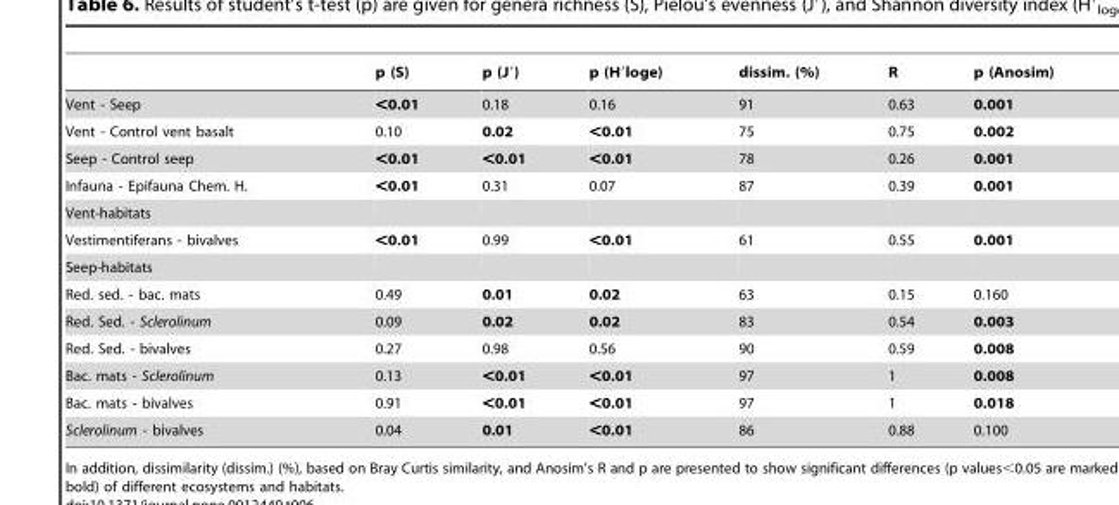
<table><thead><tr><td></td><td>p (S)</td><td>p (J′)</td><td>p (H′loge)</td><td>dissim. (%)</td><td>R</td><td>p (Anosim)</td></tr></thead><tbody><tr><td>Vent - Seep</td><td>&lt;0.01</td><td>0.18</td><td>0.16</td><td>91</td><td>0.63</td><td>0.001</td></tr><tr><td>Vent - Control vent basalt</td><td>0.10</td><td>0.02</td><td>&lt;0.01</td><td>75</td><td>0.75</td><td>0.002</td></tr><tr><td>Seep - Control seep</td><td>&lt;0.01</td><td>&lt;0.01</td><td>&lt;0.01</td><td>78</td><td>0.26</td><td>0.001</td></tr><tr><td>Infauna - Epifauna Chem. H.</td><td>&lt;0.01</td><td>0.31</td><td>0.07</td><td>87</td><td>0.39</td><td>0.001</td></tr><tr><td colspan="7">Vent-habitats</td></tr><tr><td>Vestimentiferans - bivalves</td><td>&lt;0.01</td><td>0.99</td><td>&lt;0.01</td><td>61</td><td>0.55</td><td>0.001</td></tr><tr><td colspan="7">Seep-habitats</td></tr><tr><td>Red. sed. - bac. mats</td><td>0.49</td><td>0.01</td><td>0.02</td><td>63</td><td>0.15</td><td>0.160</td></tr><tr><td>Red. Sed. - Sclerolinum</td><td>0.09</td><td>0.02</td><td>0.02</td><td>83</td><td>0.54</td><td>0.003</td></tr><tr><td>Red. Sed. - bivalves</td><td>0.27</td><td>0.98</td><td>0.56</td><td>90</td><td>0.59</td><td>0.008</td></tr><tr><td>Bac. mats - Sclerolinum</td><td>0.13</td><td>&lt;0.01</td><td>&lt;0.01</td><td>97</td><td>1</td><td>0.008</td></tr><tr><td>Bac. mats - bivalves</td><td>0.91</td><td>&lt;0.01</td><td>&lt;0.01</td><td>97</td><td>1</td><td>0.018</td></tr><tr><td>Sclerolinum - bivalves</td><td>0.04</td><td>0.01</td><td>&lt;0.01</td><td>86</td><td>0.88</td><td>0.100</td></tr></tbody></table>